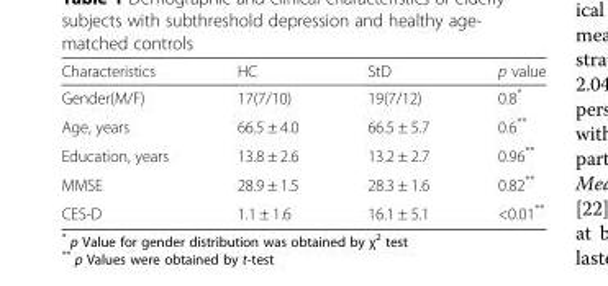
<table><thead><tr><td>Characteristics</td><td>HC</td><td>StD</td><td>p value</td></tr></thead><tbody><tr><td>Gender(M/F)</td><td>17(7/10)</td><td>19(7/12)</td><td>0.8*</td></tr><tr><td>Age, years</td><td>66.5 ± 4.0</td><td>66.5 ± 5.7</td><td>0.6**</td></tr><tr><td>Education, years</td><td>13.8 ± 2.6</td><td>13.2 ± 2.7</td><td>0.96**</td></tr><tr><td>MMSE</td><td>28.9 ± 1.5</td><td>28.3 ± 1.6</td><td>0.82**</td></tr><tr><td>CES-D</td><td>1.1 ± 1.6</td><td>16.1 ± 5.1</td><td>&lt;0.01**</td></tr></tbody></table>